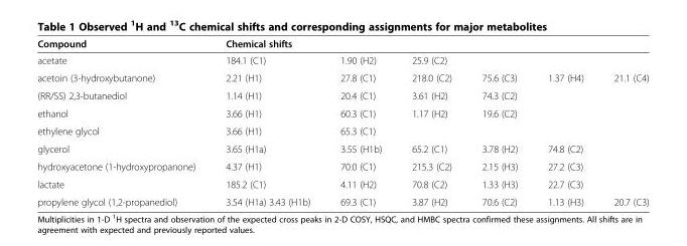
<table><thead><tr><td rowspan="2">Compound acetate</td><td colspan="6">Chemical shifts</td></tr><tr><td>184.1 (C1)</td><td>1.90 (H2)</td><td>25.9 (C2)</td><td></td><td></td><td></td></tr></thead><tbody><tr><td>acetoin (3-hydroxybutanone)</td><td>2.21 (H1)</td><td>27.8 (C1)</td><td>218.0 (C2)</td><td>75.6 (C3)</td><td>1.37 (H4)</td><td>21.1 (C4)</td></tr><tr><td>(RR/SS) 2,3-butanediol</td><td>1.14 (H1)</td><td>20.4 (C1)</td><td>3.61 (H2)</td><td>74.3 (C2)</td><td></td><td></td></tr><tr><td>ethanol</td><td>3.66 (H1)</td><td>60.3 (C1)</td><td>1.17 (H2)</td><td>19.6 (C2)</td><td></td><td></td></tr><tr><td>ethylene glycol</td><td>3.66 (H1)</td><td>65.3 (C1)</td><td></td><td></td><td></td><td></td></tr><tr><td>glycerol</td><td>3.65 (H1a)</td><td>3.55 (H1b)</td><td>65.2 (C1)</td><td>3.78 (H2)</td><td>74.8 (C2)</td><td></td></tr><tr><td>hydroxyacetone (1-hydroxypropanone)</td><td>4.37 (H1)</td><td>70.0 (C1)</td><td>215.3 (C2)</td><td>2.15 (H3)</td><td>27.2 (C3)</td><td></td></tr><tr><td>lactate</td><td>185.2 (C1)</td><td>4.11 (H2)</td><td>70.8 (C2)</td><td>1.33 (H3)</td><td>22.7 (C3)</td><td></td></tr><tr><td>propylene glycol (1,2-propanediol)</td><td>3.54 (H1a) 3.43 (H1b)</td><td>69.3 (C1)</td><td>3.87 (H2)</td><td>70.6 (C2)</td><td>1.13 (H3)</td><td>20.7 (C3)</td></tr></tbody></table>